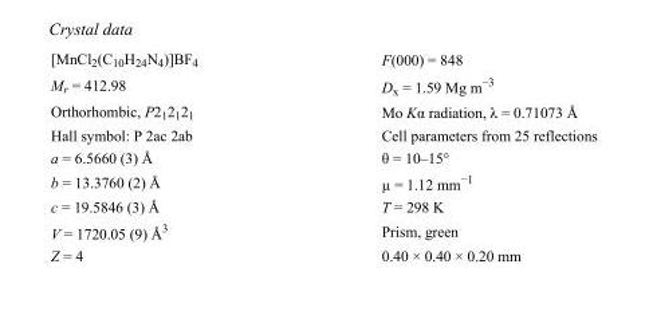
<table><tbody><tr><td>[MnCl<sub>2</sub>(C<sub>10</sub>H<sub>24</sub>N<sub>4</sub>)]BF<sub>4</sub></td><td>F(000) = 848</td></tr><tr><td>M<sub>r</sub> = 412.98</td><td>D<sub>x</sub> = 1.59 Mg m<sup>−3</sup></td></tr><tr><td>Orthorhombic, P2<sub>1</sub>2<sub>1</sub>2<sub>1</sub></td><td>Mo Kα radiation, λ = 0.71073 Å</td></tr><tr><td>Hall symbol: P 2ac 2ab</td><td>Cell parameters from 25 reflections</td></tr><tr><td>a = 6.5660 (3) Å</td><td>θ = 10–15°</td></tr><tr><td>b = 13.3760 (2) Å</td><td>µ = 1.12 mm<sup>−1</sup></td></tr><tr><td>c = 19.5846 (3) Å</td><td>T = 298 K</td></tr><tr><td>V = 1720.05 (9) Å<sup>3</sup></td><td>Prism, green</td></tr><tr><td>Z = 4</td><td>0.40 × 0.40 × 0.20 mm</td></tr></tbody></table>